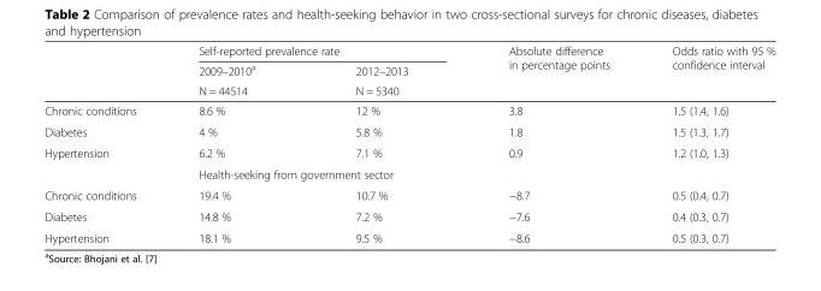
<table><thead><tr><td rowspan="3"></td><td colspan="2">Self-reported prevalence rate</td><td rowspan="3">Absolute difference in percentage points</td><td rowspan="3">Odds ratio with 95 % confidence interval</td></tr><tr><td rowspan="2">2009–2010<sup>a</sup> N = 44514</td><td rowspan="2">2012–2013 N = 5340</td></tr><tr></tr></thead><tbody><tr><td>Chronic conditions</td><td>8.6 %</td><td>12 %</td><td>3.8</td><td>1.5 (1.4, 1.6)</td></tr><tr><td>Diabetes</td><td>4 %</td><td>5.8 %</td><td>1.8</td><td>1.5 (1.3, 1.7)</td></tr><tr><td rowspan="2">Hypertension</td><td>6.2 %</td><td>7.1 %</td><td>0.9</td><td>1.2 (1.0, 1.3)</td></tr><tr><td colspan="2">Health-seeking from government sector</td><td></td><td></td></tr><tr><td>Chronic conditions</td><td>19.4 %</td><td>10.7 %</td><td>−8.7</td><td>0.5 (0.4, 0.7)</td></tr><tr><td>Diabetes</td><td>14.8 %</td><td>7.2 %</td><td>−7.6</td><td>0.4 (0.3, 0.7)</td></tr><tr><td>Hypertension</td><td>18.1 %</td><td>9.5 %</td><td>−8.6</td><td>0.5 (0.3, 0.7)</td></tr></tbody></table>